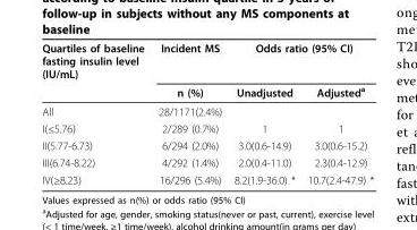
<table><thead><tr><td rowspan="2">Quartiles of baseline fasting insulin level (IU/mL)</td><td rowspan="2">Incident MS n (%)</td><td colspan="2">Odds ratio (95% CI)</td></tr><tr><td>Unadjusted</td><td>Adjusted<sup>a</sup></td></tr></thead><tbody><tr><td>All</td><td>28/1171(2.4%)</td><td></td><td></td></tr><tr><td>I(≤5.76)</td><td>2/289 (0.7%)</td><td>1</td><td>1</td></tr><tr><td>II(5.77-6.73)</td><td>6/294 (2.0%)</td><td>3.0(0.6-14.9)</td><td>3.0(0.6-15.2)</td></tr><tr><td>III(6.74-8.22)</td><td>4/292 (1.4%)</td><td>2.0(0.4-11.0)</td><td>2.3(0.4-12.9)</td></tr><tr><td>IV(≥8.23)</td><td>16/296 (5.4%)</td><td>8.2(1.9-36.0) *</td><td>10.7(2.4-47.9) *</td></tr></tbody></table>